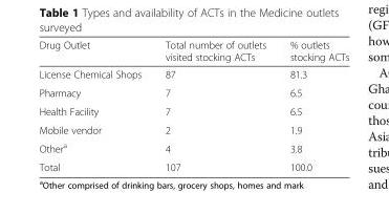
<table><thead><tr><td>Drug Outlet</td><td>Total number of outlets visited stocking ACTs</td><td>% outlets stocking ACTs</td></tr></thead><tbody><tr><td>License Chemical Shops</td><td>87</td><td>81.3</td></tr><tr><td>Pharmacy</td><td>7</td><td>6.5</td></tr><tr><td>Health Facility</td><td>7</td><td>6.5</td></tr><tr><td>Mobile vendor</td><td>2</td><td>1.9</td></tr><tr><td>Other<sup>a</sup></td><td>4</td><td>3.8</td></tr><tr><td>Total</td><td>107</td><td>100.0</td></tr></tbody></table>